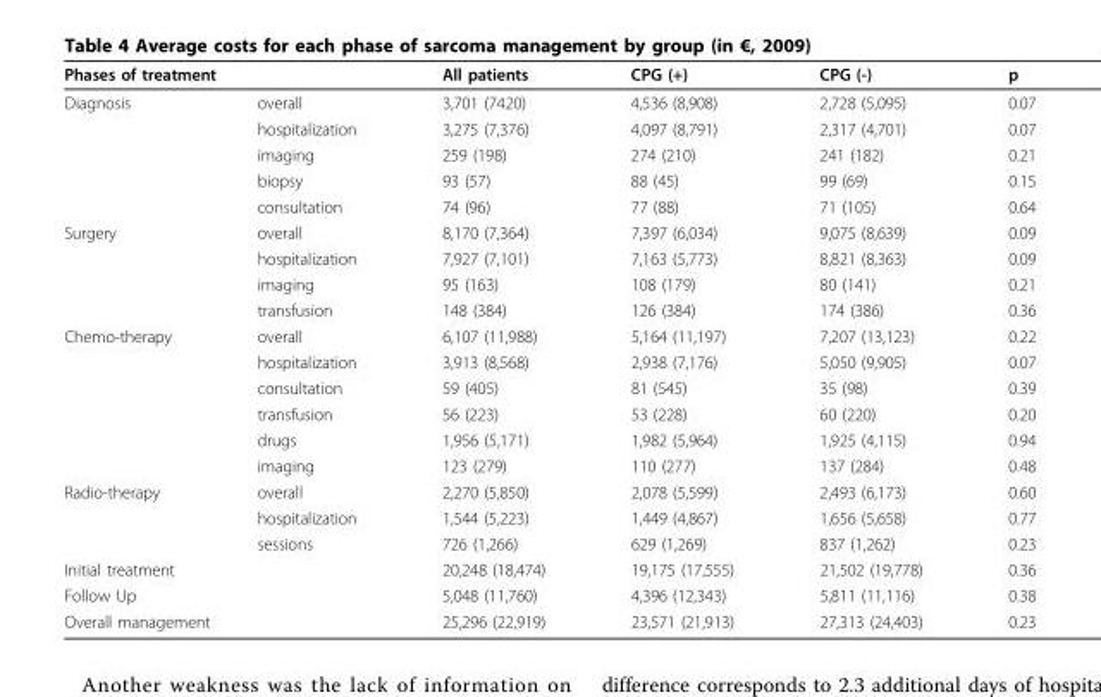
<table><thead><tr><td colspan="2">Phases of treatment</td><td rowspan="2">All patients 3,701 (7420)</td><td rowspan="2">CPG (+) 4,536 (8,908)</td><td rowspan="2">CPG (-) 2,728 (5,095)</td><td rowspan="2">p 0.07</td></tr><tr><td>Diagnosis</td><td>overall</td></tr></thead><tbody><tr><td></td><td>hospitalization</td><td>3,275 (7,376)</td><td>4,097 (8,791)</td><td>2,317 (4,701)</td><td>0.07</td></tr><tr><td></td><td>imaging</td><td>259 (198)</td><td>274 (210)</td><td>241 (182)</td><td>0.21</td></tr><tr><td></td><td>biopsy</td><td>93 (57)</td><td>88 (45)</td><td>99 (69)</td><td>0.15</td></tr><tr><td></td><td>consultation</td><td>74 (96)</td><td>77 (88)</td><td>71 (105)</td><td>0.64</td></tr><tr><td rowspan="4">Surgery</td><td>overall</td><td>8,170 (7,364)</td><td>7,397 (6,034)</td><td>9,075 (8,639)</td><td>0.09</td></tr><tr><td>hospitalization</td><td>7,927 (7,101)</td><td>7,163 (5,773)</td><td>8,821 (8,363)</td><td>0.09</td></tr><tr><td>imaging</td><td>95 (163)</td><td>108 (179)</td><td>80 (141)</td><td>0.21</td></tr><tr><td>transfusion</td><td>148 (384)</td><td>126 (384)</td><td>174 (386)</td><td>0.36</td></tr><tr><td rowspan="6">Chemo-therapy</td><td>overall</td><td>6,107 (11,988)</td><td>5,164 (11,197)</td><td>7,207 (13,123)</td><td>0.22</td></tr><tr><td>hospitalization</td><td>3,913 (8,568)</td><td>2,938 (7,176)</td><td>5,050 (9,905)</td><td>0.07</td></tr><tr><td>consultation</td><td>59 (405)</td><td>81 (545)</td><td>35 (98)</td><td>0.39</td></tr><tr><td>transfusion</td><td>56 (223)</td><td>53 (228)</td><td>60 (220)</td><td>0.20</td></tr><tr><td>drugs</td><td>1,956 (5,171)</td><td>1,982 (5,964)</td><td>1,925 (4,115)</td><td>0.94</td></tr><tr><td>imaging</td><td>123 (279)</td><td>110 (277)</td><td>137 (284)</td><td>0.48</td></tr><tr><td rowspan="3">Radio-therapy</td><td>overall</td><td>2,270 (5,850)</td><td>2,078 (5,599)</td><td>2,493 (6,173)</td><td>0.60</td></tr><tr><td>hospitalization</td><td>1,544 (5,223)</td><td>1,449 (4,867)</td><td>1,656 (5,658)</td><td>0.77</td></tr><tr><td>sessions</td><td>726 (1,266)</td><td>629 (1,269)</td><td>837 (1,262)</td><td>0.23</td></tr><tr><td colspan="2">Initial treatment</td><td>20,248 (18,474)</td><td>19,175 (17,555)</td><td>21,502 (19,778)</td><td>0.36</td></tr><tr><td colspan="2">Follow Up</td><td>5,048 (11,760)</td><td>4,396 (12,343)</td><td>5,811 (11,116)</td><td>0.38</td></tr><tr><td colspan="2">Overall management</td><td>25,296 (22,919)</td><td>23,571 (21,913)</td><td>27,313 (24,403)</td><td>0.23</td></tr></tbody></table>